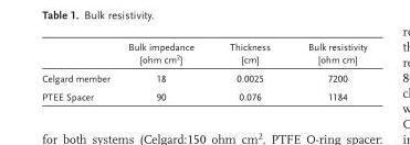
<table><thead><tr><td></td><td>Bulk impedance [ohm cm <sup>2</sup> ]</td><td>Thickness [cm]</td><td>Bulk resistivity [ohm cm]</td></tr></thead><tbody><tr><td>Celgard member</td><td>18</td><td>0.0025</td><td>7200</td></tr><tr><td>PTEE Spacer</td><td>90</td><td>0.076</td><td>1184</td></tr></tbody></table>